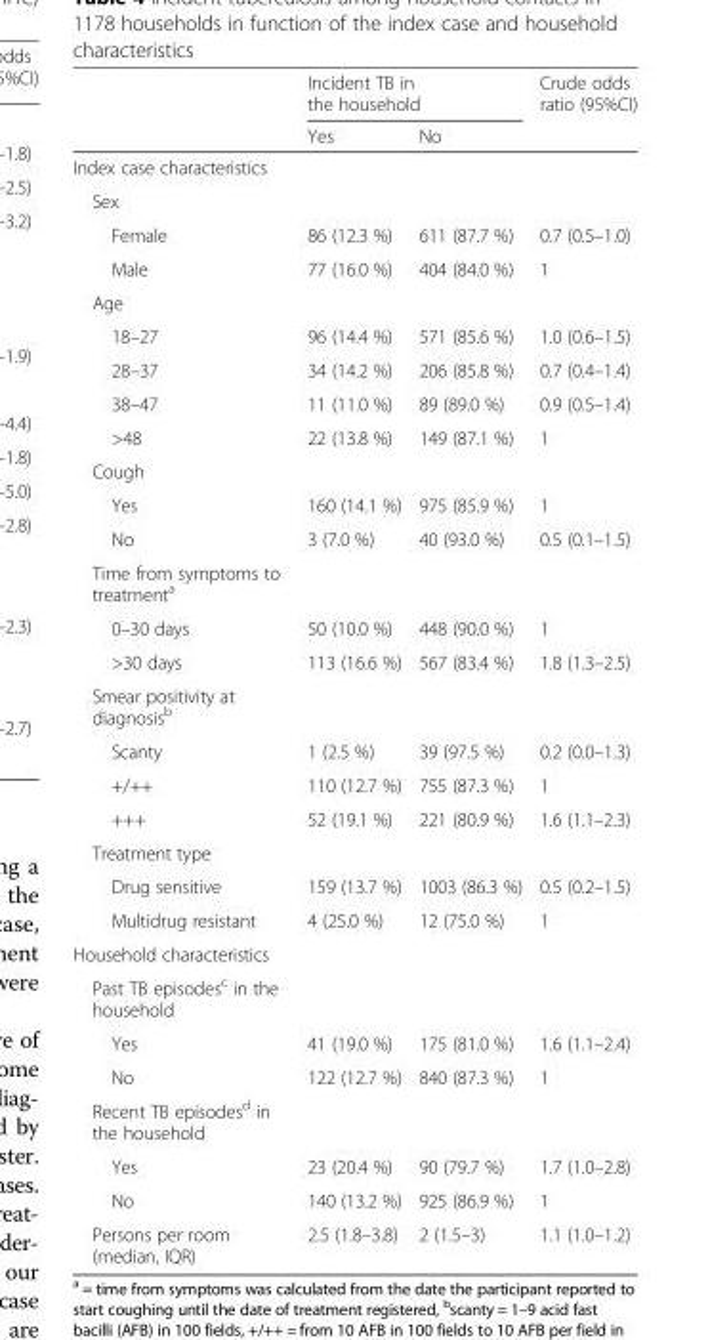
<table><thead><tr><td rowspan="2"></td><td colspan="2">Incident TB in the household</td><td rowspan="2">Crude odds ratio (95%CI)</td></tr><tr><td>Yes</td><td>No</td></tr></thead><tbody><tr><td colspan="4">Index case characteristics</td></tr><tr><td colspan="4">Sex</td></tr><tr><td>Female</td><td>86 (12.3 %)</td><td>611 (87.7 %)</td><td>0.7 (0.5–1.0)</td></tr><tr><td>Male</td><td>77 (16.0 %)</td><td>404 (84.0 %)</td><td>1</td></tr><tr><td colspan="4">Age</td></tr><tr><td>18–27</td><td>96 (14.4 %)</td><td>571 (85.6 %)</td><td>1.0 (0.6–1.5)</td></tr><tr><td>28–37</td><td>34 (14.2 %)</td><td>206 (85.8 %)</td><td>0.7 (0.4–1.4)</td></tr><tr><td>38–47</td><td>11 (11.0 %)</td><td>89 (89.0 %)</td><td>0.9 (0.5–1.4)</td></tr><tr><td>&gt;48</td><td>22 (13.8 %)</td><td>149 (87.1 %)</td><td>1</td></tr><tr><td colspan="4">Cough</td></tr><tr><td>Yes</td><td>160 (14.1 %)</td><td>975 (85.9 %)</td><td>1</td></tr><tr><td>No</td><td>3 (7.0 %)</td><td>40 (93.0 %)</td><td>0.5 (0.1–1.5)</td></tr><tr><td colspan="4">Time from symptoms to treatment<sup>a</sup></td></tr><tr><td>0–30 days</td><td>50 (10.0 %)</td><td>448 (90.0 %)</td><td>1</td></tr><tr><td>&gt;30 days</td><td>113 (16.6 %)</td><td>567 (83.4 %)</td><td>1.8 (1.3–2.5)</td></tr><tr><td colspan="4">Smear positivity at diagnosis<sup>b</sup></td></tr><tr><td>Scanty</td><td>1 (2.5 %)</td><td>39 (97.5 %)</td><td>0.2 (0.0–1.3)</td></tr><tr><td>+/++</td><td>110 (12.7 %)</td><td>755 (87.3 %)</td><td>1</td></tr><tr><td>+++</td><td>52 (19.1 %)</td><td>221 (80.9 %)</td><td>1.6 (1.1–2.3)</td></tr><tr><td colspan="4">Treatment type</td></tr><tr><td>Drug sensitive</td><td>159 (13.7 %)</td><td>1003 (86.3 %)</td><td>0.5 (0.2–1.5)</td></tr><tr><td>Multidrug resistant</td><td>4 (25.0 %)</td><td>12 (75.0 %)</td><td>1</td></tr><tr><td colspan="4">Household characteristics</td></tr><tr><td colspan="4">Past TB episodes<sup>c</sup> in the household</td></tr><tr><td>Yes</td><td>41 (19.0 %)</td><td>175 (81.0 %)</td><td>1.6 (1.1–2.4)</td></tr><tr><td>No</td><td>122 (12.7 %)</td><td>840 (87.3 %)</td><td>1</td></tr><tr><td colspan="4">Recent TB episodes<sup>d</sup> in the household</td></tr><tr><td>Yes</td><td>23 (20.4 %)</td><td>90 (79.7 %)</td><td>1.7 (1.0–2.8)</td></tr><tr><td>No</td><td>140 (13.2 %)</td><td>925 (86.9 %)</td><td>1</td></tr><tr><td>Persons per room (median, IQR)</td><td>2.5 (1.8–3.8)</td><td>2 (1.5–3)</td><td>1.1 (1.0–1.2)</td></tr></tbody></table>